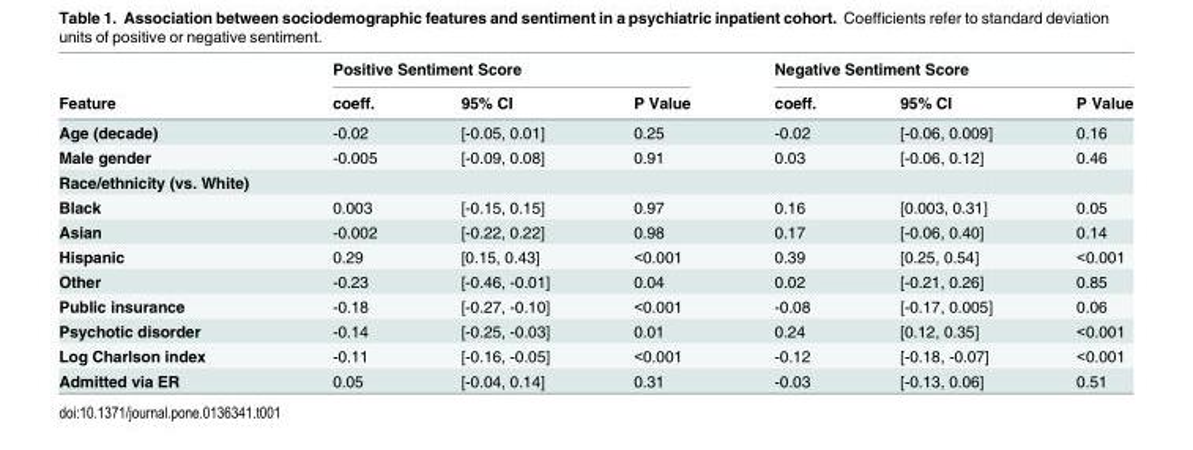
<table><thead><tr><td rowspan="2">Feature</td><td colspan="3">Positive Sentiment Score</td><td colspan="3">Negative Sentiment Score</td></tr><tr><td>coeff.</td><td>95% CI</td><td>P Value</td><td>coeff.</td><td>95% CI</td><td>P Value</td></tr></thead><tbody><tr><td>Age (decade)</td><td>-0.02</td><td>[-0.05, 0.01]</td><td>0.25</td><td>-0.02</td><td>[-0.06, 0.009]</td><td>0.16</td></tr><tr><td>Male gender</td><td>-0.005</td><td>[-0.09, 0.08]</td><td>0.91</td><td>0.03</td><td>[-0.06, 0.12]</td><td>0.46</td></tr><tr><td colspan="7">Race/ethnicity (vs. White)</td></tr><tr><td>Black</td><td>0.003</td><td>[-0.15, 0.15]</td><td>0.97</td><td>0.16</td><td>[0.003, 0.31]</td><td>0.05</td></tr><tr><td>Asian</td><td>-0.002</td><td>[-0.22, 0.22]</td><td>0.98</td><td>0.17</td><td>[-0.06, 0.40]</td><td>0.14</td></tr><tr><td>Hispanic</td><td>0.29</td><td>[0.15, 0.43]</td><td>&lt;0.001</td><td>0.39</td><td>[0.25, 0.54]</td><td>&lt;0.001</td></tr><tr><td>Other</td><td>-0.23</td><td>[-0.46, -0.01]</td><td>0.04</td><td>0.02</td><td>[-0.21, 0.26]</td><td>0.85</td></tr><tr><td>Public insurance</td><td>-0.18</td><td>[-0.27, -0.10]</td><td>&lt;0.001</td><td>-0.08</td><td>[-0.17, 0.005]</td><td>0.06</td></tr><tr><td>Psychotic disorder</td><td>-0.14</td><td>[-0.25, -0.03]</td><td>0.01</td><td>0.24</td><td>[0.12, 0.35]</td><td>&lt;0.001</td></tr><tr><td>Log Charlson index</td><td>-0.11</td><td>[-0.16, -0.05]</td><td>&lt;0.001</td><td>-0.12</td><td>[-0.18, -0.07]</td><td>&lt;0.001</td></tr><tr><td>Admitted via ER</td><td>0.05</td><td>[-0.04, 0.14]</td><td>0.31</td><td>-0.03</td><td>[-0.13, 0.06]</td><td>0.51</td></tr></tbody></table>